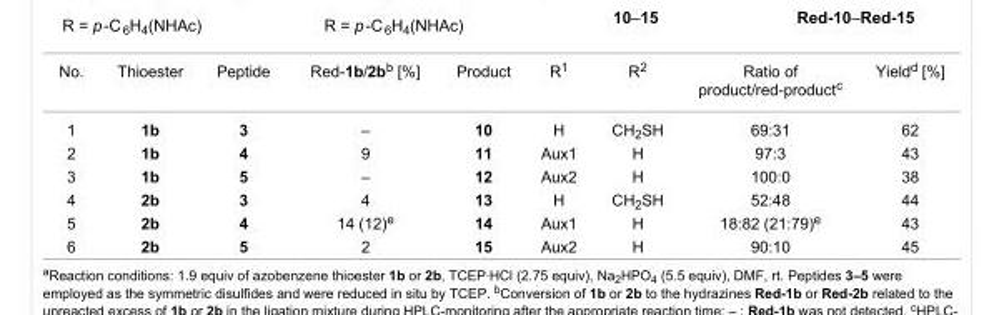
<table><tbody><tr><td>No.</td><td>Thioester</td><td>Peptide</td><td>Red-1b/2b<sup>b</sup> [%]</td><td>Product</td><td>R<sup>1</sup></td><td>R<sup>2</sup></td><td>Ratio of product/red-product<sup>c</sup></td><td>Yield<sup>d</sup> [%]</td></tr><tr><td>1</td><td>1b</td><td>3</td><td>–</td><td>10</td><td>H</td><td>CH<sub>2</sub>SH</td><td>69:31</td><td>62</td></tr><tr><td>2</td><td>1b</td><td>4</td><td>9</td><td>11</td><td>Aux1</td><td>H</td><td>97:3</td><td>43</td></tr><tr><td>3</td><td>1b</td><td>5</td><td>–</td><td>12</td><td>Aux2</td><td>H</td><td>100:0</td><td>38</td></tr><tr><td>4</td><td>2b</td><td>3</td><td>4</td><td>13</td><td>H</td><td>CH<sub>2</sub>SH</td><td>52:48</td><td>44</td></tr><tr><td>5</td><td>2b</td><td>4</td><td>14 (12)<sup>e</sup></td><td>14</td><td>Aux1</td><td>H</td><td>18:82 (21:79)<sup>e</sup></td><td>43</td></tr><tr><td>6</td><td>2b</td><td>5</td><td>2</td><td>15</td><td>Aux2</td><td>H</td><td>90:10</td><td>45</td></tr></tbody></table>